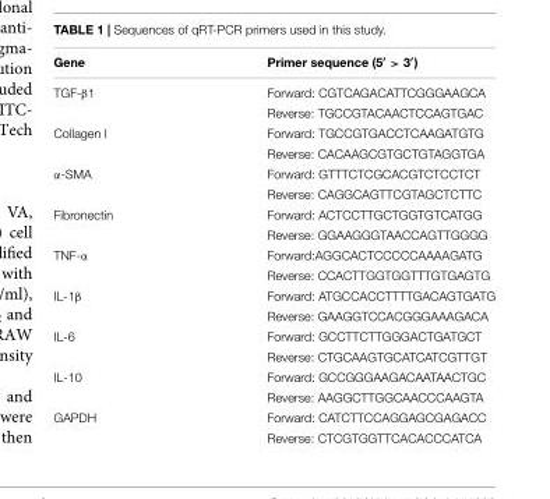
<table><thead><tr><td>Gene</td><td>Primer sequence (5′ &gt; 3′)</td></tr></thead><tbody><tr><td rowspan="2">TGF-β1</td><td>Forward: CGTCAGACATTCGGGAAGCA</td></tr><tr><td>Reverse: TGCCGTACAACTCCAGTGAC</td></tr><tr><td rowspan="2">Collagen I</td><td>Forward: TGCCGTGACCTCAAGATGTG</td></tr><tr><td>Reverse: CACAAGCGTGCTGTAGGTGA</td></tr><tr><td rowspan="2">α-SMA</td><td>Forward: GTTTCTCGCACGTCTCCTCT</td></tr><tr><td>Reverse: CAGGCAGTTCGTAGCTCTTC</td></tr><tr><td rowspan="2">Fibronectin</td><td>Forward: ACTCCTTGCTGGTGTCATGG</td></tr><tr><td>Reverse: GGAAGGGTAACCAGTTGGGG</td></tr><tr><td rowspan="2">TNF-α</td><td>Forward:AGGCACTCCCCCAAAAGATG</td></tr><tr><td>Reverse: CCACTTGGTGGTTTGTGAGTG</td></tr><tr><td rowspan="2">IL-1β</td><td>Forward: ATGCCACCTTTTGACAGTGATG</td></tr><tr><td>Reverse: GAAGGTCCACGGGAAAGACA</td></tr><tr><td rowspan="2">IL-6</td><td>Forward: GCCTTCTTGGGACTGATGCT</td></tr><tr><td>Reverse: CTGCAAGTGCATCATCGTTGT</td></tr><tr><td rowspan="2">IL-10</td><td>Forward: GCCGGGAAGACAATAACTGC</td></tr><tr><td>Reverse: AAGGCTTGGCAACCCAAGTA</td></tr><tr><td rowspan="2">GAPDH</td><td>Forward: CATCTTCCAGGAGCGAGACC</td></tr><tr><td>Reverse: CTCGTGGTTCACACCCATCA</td></tr></tbody></table>